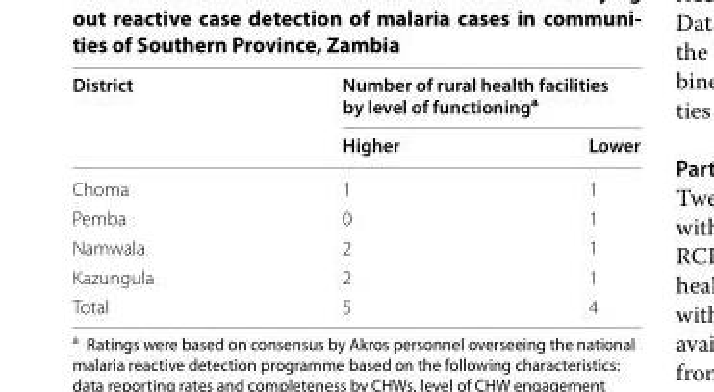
<table><thead><tr><td rowspan="2">District</td><td colspan="2">Number of rural health facilities by level of functioning<sup>a</sup></td></tr><tr><td>Higher</td><td>Lower</td></tr></thead><tbody><tr><td>Choma</td><td>1</td><td>1</td></tr><tr><td>Pemba</td><td>0</td><td>1</td></tr><tr><td>Namwala</td><td>2</td><td>1</td></tr><tr><td>Kazungula</td><td>2</td><td>1</td></tr><tr><td>Total</td><td>5</td><td>4</td></tr></tbody></table>